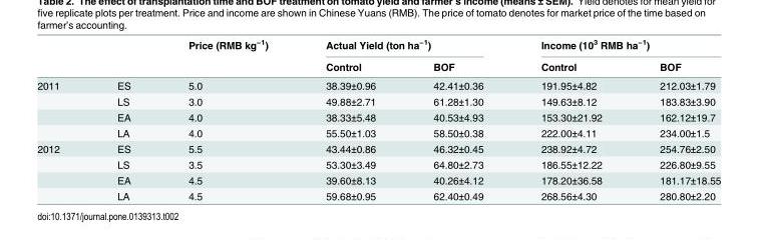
<table><thead><tr><td rowspan="2"></td><td rowspan="2"></td><td rowspan="2">Price (RMB kg<sup>−1</sup>)</td><td colspan="2">Actual Yield (ton ha<sup>−1</sup>)</td><td colspan="2">Income (10<sup>3</sup> RMB ha<sup>−1</sup>)</td></tr><tr><td>Control</td><td>BOF</td><td>Control</td><td>BOF</td></tr></thead><tbody><tr><td rowspan="4">2011</td><td>ES</td><td>5.0</td><td>38.39±0.96</td><td>42.41±0.36</td><td>191.95±4.82</td><td>212.03±1.79</td></tr><tr><td>LS</td><td>3.0</td><td>49.88±2.71</td><td>61.28±1.30</td><td>149.63±8.12</td><td>183.83±3.90</td></tr><tr><td>EA</td><td>4.0</td><td>38.33±5.48</td><td>40.53±4.93</td><td>153.30±21.92</td><td>162.12±19.7</td></tr><tr><td>LA</td><td>4.0</td><td>55.50±1.03</td><td>58.50±0.38</td><td>222.00±4.11</td><td>234.00±1.5</td></tr><tr><td rowspan="4">2012</td><td>ES</td><td>5.5</td><td>43.44±0.86</td><td>46.32±0.45</td><td>238.92±4.72</td><td>254.76±2.50</td></tr><tr><td>LS</td><td>3.5</td><td>53.30±3.49</td><td>64.80±2.73</td><td>186.55±12.22</td><td>226.80±9.55</td></tr><tr><td>EA</td><td>4.5</td><td>39.60±8.13</td><td>40.26±4.12</td><td>178.20±36.58</td><td>181.17±18.55</td></tr><tr><td>LA</td><td>4.5</td><td>59.68±0.95</td><td>62.40±0.49</td><td>268.56±4.30</td><td>280.80±2.20</td></tr></tbody></table>